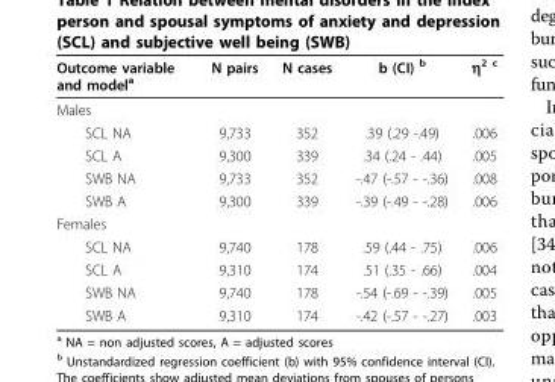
<table><thead><tr><td>Outcome variable and model<sup>a</sup></td><td>N pairs</td><td>N cases</td><td>b (CI) <sup>b</sup></td><td>η<sup>2 c</sup></td></tr></thead><tbody><tr><td colspan="5">Males</td></tr><tr><td>SCL NA</td><td>9,733</td><td>352</td><td>.39 (.29 -.49)</td><td>.006</td></tr><tr><td>SCL A</td><td>9,300</td><td>339</td><td>.34 (.24 - .44)</td><td>.005</td></tr><tr><td>SWB NA</td><td>9,733</td><td>352</td><td>-.47 (-.57 - -.36)</td><td>.008</td></tr><tr><td>SWB A</td><td>9,300</td><td>339</td><td>-.39 (-.49 - -.28)</td><td>.006</td></tr><tr><td colspan="5">Females</td></tr><tr><td>SCL NA</td><td>9,740</td><td>178</td><td>.59 (.44 - .75)</td><td>.006</td></tr><tr><td>SCL A</td><td>9,310</td><td>174</td><td>.51 (.35 - .66)</td><td>.004</td></tr><tr><td>SWB NA</td><td>9,740</td><td>178</td><td>-.54 (-.69 - -.39)</td><td>.005</td></tr><tr><td>SWB A</td><td>9,310</td><td>174</td><td>-.42 (-.57 - -.27)</td><td>.003</td></tr></tbody></table>